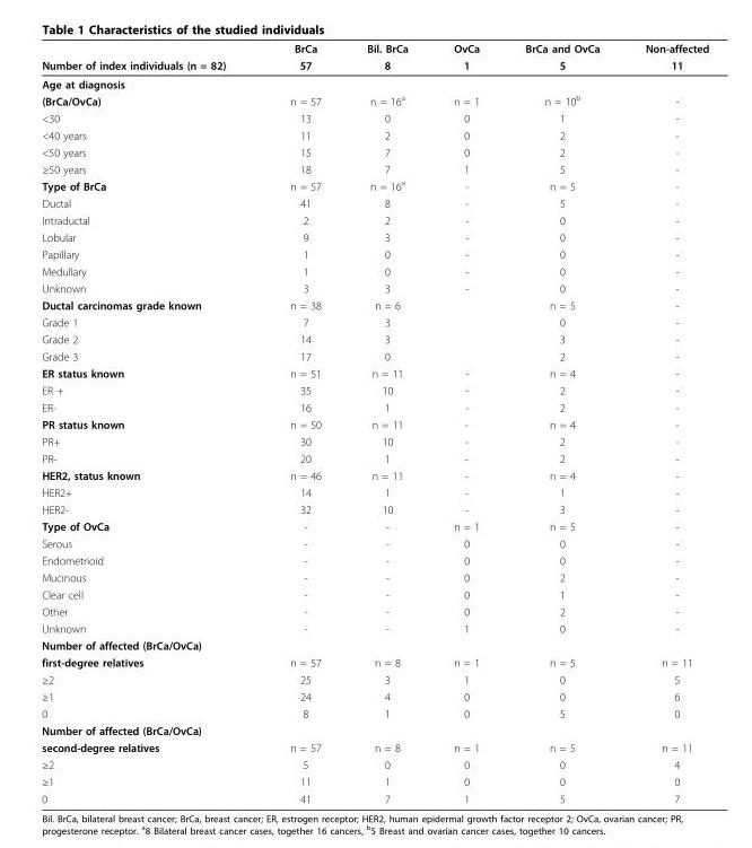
<table><thead><tr><td rowspan="2">Number of index individuals (n = 82)</td><td rowspan="2">BrCa 57</td><td rowspan="2">Bil. BrCa 8</td><td rowspan="2">OvCa 1</td><td rowspan="2">BrCa and OvCa 5</td><td rowspan="2">Non-affected 11</td></tr><tr></tr></thead><tbody><tr><td colspan="6">Age at diagnosis</td></tr><tr><td>(BrCa/OvCa)</td><td>n = 57</td><td>n = 16<sup>a</sup></td><td>n = 1</td><td>n = 10<sup>b</sup></td><td>-</td></tr><tr><td>&lt;30</td><td>13</td><td>0</td><td>0</td><td>1</td><td>-</td></tr><tr><td>&lt;40 years</td><td>11</td><td>2</td><td>0</td><td>2</td><td>-</td></tr><tr><td>&lt;50 years</td><td>15</td><td>7</td><td>0</td><td>2</td><td>-</td></tr><tr><td>≥50 years</td><td>18</td><td>7</td><td>1</td><td>5</td><td>-</td></tr><tr><td>Type of BrCa</td><td>n = 57</td><td>n = 16<sup>a</sup></td><td>-</td><td>n = 5</td><td>-</td></tr><tr><td>Ductal</td><td>41</td><td>8</td><td>-</td><td>5</td><td>-</td></tr><tr><td>Intraductal</td><td>2</td><td>2</td><td>-</td><td>0</td><td>-</td></tr><tr><td>Lobular</td><td>9</td><td>3</td><td>-</td><td>0</td><td>-</td></tr><tr><td>Papillary</td><td>1</td><td>0</td><td>-</td><td>0</td><td>-</td></tr><tr><td>Medullary</td><td>1</td><td>0</td><td>-</td><td>0</td><td>-</td></tr><tr><td>Unknown</td><td>3</td><td>3</td><td>-</td><td>0</td><td>-</td></tr><tr><td>Ductal carcinomas grade known</td><td>n = 38</td><td>n = 6</td><td></td><td>n = 5</td><td>-</td></tr><tr><td>Grade 1</td><td>7</td><td>3</td><td></td><td>0</td><td>-</td></tr><tr><td>Grade 2</td><td>14</td><td>3</td><td></td><td>3</td><td>-</td></tr><tr><td>Grade 3</td><td>17</td><td>0</td><td></td><td>2</td><td>-</td></tr><tr><td>ER status known</td><td>n = 51</td><td>n = 11</td><td>-</td><td>n = 4</td><td>-</td></tr><tr><td>ER +</td><td>35</td><td>10</td><td>-</td><td>2</td><td>-</td></tr><tr><td>ER-</td><td>16</td><td>1</td><td>-</td><td>2</td><td>-</td></tr><tr><td>PR status known</td><td>n = 50</td><td>n = 11</td><td>-</td><td>n = 4</td><td>-</td></tr><tr><td>PR+</td><td>30</td><td>10</td><td>-</td><td>2</td><td>-</td></tr><tr><td>PR-</td><td>20</td><td>1</td><td>-</td><td>2</td><td>-</td></tr><tr><td>HER2, status known</td><td>n = 46</td><td>n = 11</td><td>-</td><td>n = 4</td><td>-</td></tr><tr><td>HER2+</td><td>14</td><td>1</td><td>-</td><td>1</td><td>-</td></tr><tr><td>HER2-</td><td>32</td><td>10</td><td>-</td><td>3</td><td>-</td></tr><tr><td>Type of OvCa</td><td>-</td><td>-</td><td>n = 1</td><td>n = 5</td><td>-</td></tr><tr><td>Serous</td><td>-</td><td>-</td><td>0</td><td>0</td><td>-</td></tr><tr><td>Endometrioid</td><td>-</td><td>-</td><td>0</td><td>0</td><td>-</td></tr><tr><td>Mucinous</td><td>-</td><td>-</td><td>0</td><td>2</td><td>-</td></tr><tr><td>Clear cell</td><td>-</td><td>-</td><td>0</td><td>1</td><td>-</td></tr><tr><td>Other</td><td>-</td><td>-</td><td>0</td><td>2</td><td>-</td></tr><tr><td>Unknown</td><td>-</td><td>-</td><td>1</td><td>0</td><td>-</td></tr><tr><td colspan="6">Number of affected (BrCa/OvCa)</td></tr><tr><td>first-degree relatives</td><td>n = 57</td><td>n = 8</td><td>n = 1</td><td>n = 5</td><td>n = 11</td></tr><tr><td>≥2</td><td>25</td><td>3</td><td>1</td><td>0</td><td>5</td></tr><tr><td>≥1</td><td>24</td><td>4</td><td>0</td><td>0</td><td>6</td></tr><tr><td>0</td><td>8</td><td>1</td><td>0</td><td>5</td><td>0</td></tr><tr><td colspan="6">Number of affected (BrCa/OvCa)</td></tr><tr><td>second-degree relatives</td><td>n = 57</td><td>n = 8</td><td>n = 1</td><td>n = 5</td><td>n = 11</td></tr><tr><td>≥2</td><td>5</td><td>0</td><td>0</td><td>0</td><td>4</td></tr><tr><td>≥1</td><td>11</td><td>1</td><td>0</td><td>0</td><td>0</td></tr><tr><td>0</td><td>41</td><td>7</td><td>1</td><td>5</td><td>7</td></tr></tbody></table>